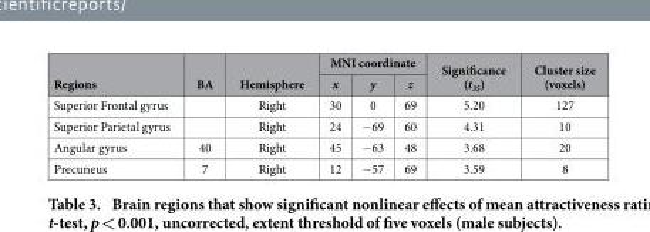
<table><thead><tr><td rowspan="2">Regions</td><td rowspan="2">BA</td><td rowspan="2">Hemisphere</td><td colspan="3">MNI coordinate</td><td rowspan="2">Significance (t<sub>35</sub>)</td><td rowspan="2">Cluster size (voxels)</td></tr><tr><td>x</td><td>y</td><td>z</td></tr></thead><tbody><tr><td>Superior Frontal gyrus</td><td></td><td>Right</td><td>30</td><td>0</td><td>69</td><td>5.20</td><td>127</td></tr><tr><td>Superior Parietal gyrus</td><td></td><td>Right</td><td>24</td><td>− 69</td><td>60</td><td>4.31</td><td>10</td></tr><tr><td>Angular gyrus</td><td>40</td><td>Right</td><td>45</td><td>− 63</td><td>48</td><td>3.68</td><td>20</td></tr><tr><td>Precuneus</td><td>7</td><td>Right</td><td>12</td><td>− 57</td><td>69</td><td>3.59</td><td>8</td></tr></tbody></table>